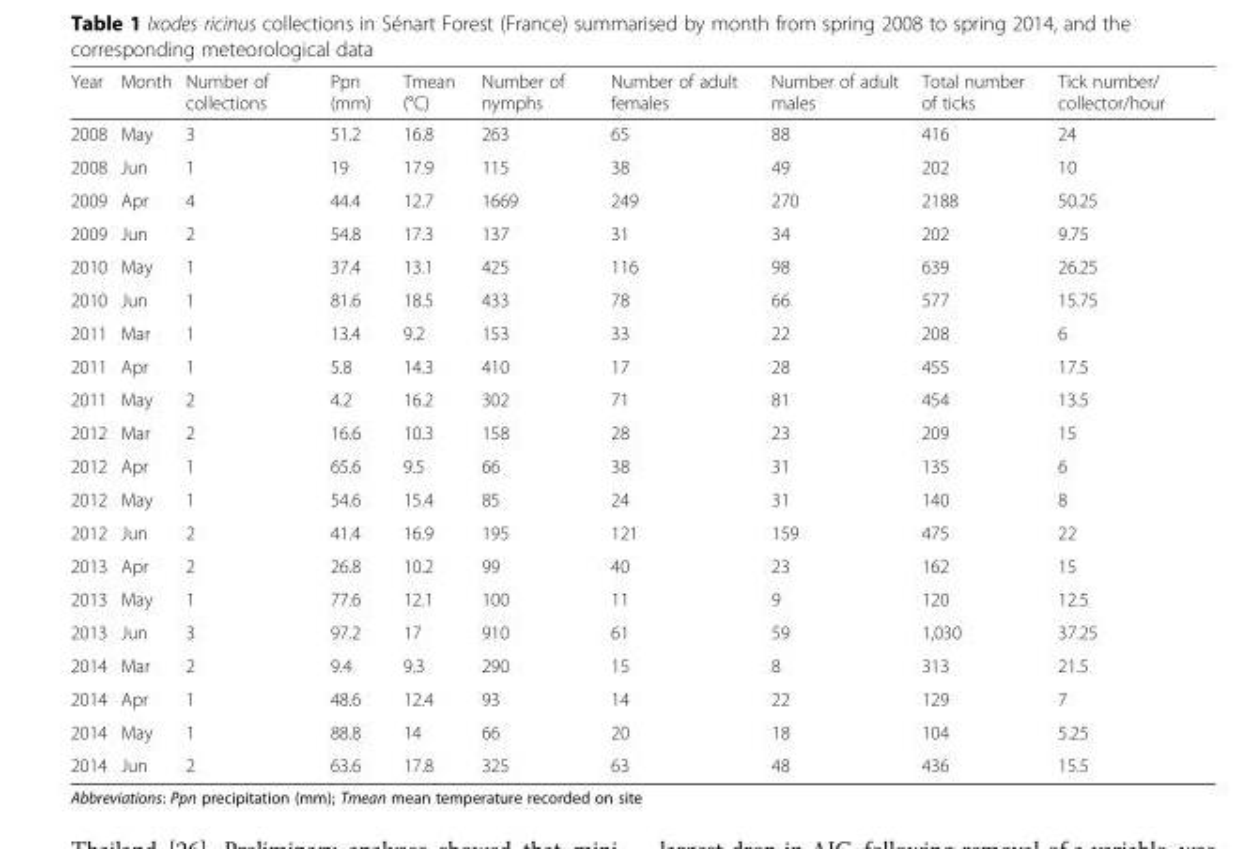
<table><thead><tr><td>Year</td><td>Month</td><td>Number of collections</td><td>Ppn (mm)</td><td>Tmean (°C)</td><td>Number of nymphs</td><td>Number of adult females</td><td>Number of adult males</td><td>Total number of ticks</td><td>Tick number/ collector/hour</td></tr></thead><tbody><tr><td>2008</td><td>May</td><td>3</td><td>51.2</td><td>16.8</td><td>263</td><td>65</td><td>88</td><td>416</td><td>24</td></tr><tr><td>2008</td><td>Jun</td><td>1</td><td>19</td><td>17.9</td><td>115</td><td>38</td><td>49</td><td>202</td><td>10</td></tr><tr><td>2009</td><td>Apr</td><td>4</td><td>44.4</td><td>12.7</td><td>1669</td><td>249</td><td>270</td><td>2188</td><td>50.25</td></tr><tr><td>2009</td><td>Jun</td><td>2</td><td>54.8</td><td>17.3</td><td>137</td><td>31</td><td>34</td><td>202</td><td>9.75</td></tr><tr><td>2010</td><td>May</td><td>1</td><td>37.4</td><td>13.1</td><td>425</td><td>116</td><td>98</td><td>639</td><td>26.25</td></tr><tr><td>2010</td><td>Jun</td><td>1</td><td>81.6</td><td>18.5</td><td>433</td><td>78</td><td>66</td><td>577</td><td>15.75</td></tr><tr><td>2011</td><td>Mar</td><td>1</td><td>13.4</td><td>9.2</td><td>153</td><td>33</td><td>22</td><td>208</td><td>6</td></tr><tr><td>2011</td><td>Apr</td><td>1</td><td>5.8</td><td>14.3</td><td>410</td><td>17</td><td>28</td><td>455</td><td>17.5</td></tr><tr><td>2011</td><td>May</td><td>2</td><td>4.2</td><td>16.2</td><td>302</td><td>71</td><td>81</td><td>454</td><td>13.5</td></tr><tr><td>2012</td><td>Mar</td><td>2</td><td>16.6</td><td>10.3</td><td>158</td><td>28</td><td>23</td><td>209</td><td>15</td></tr><tr><td>2012</td><td>Apr</td><td>1</td><td>65.6</td><td>9.5</td><td>66</td><td>38</td><td>31</td><td>135</td><td>6</td></tr><tr><td>2012</td><td>May</td><td>1</td><td>54.6</td><td>15.4</td><td>85</td><td>24</td><td>31</td><td>140</td><td>8</td></tr><tr><td>2012</td><td>Jun</td><td>2</td><td>41.4</td><td>16.9</td><td>195</td><td>121</td><td>159</td><td>475</td><td>22</td></tr><tr><td>2013</td><td>Apr</td><td>2</td><td>26.8</td><td>10.2</td><td>99</td><td>40</td><td>23</td><td>162</td><td>15</td></tr><tr><td>2013</td><td>May</td><td>1</td><td>77.6</td><td>12.1</td><td>100</td><td>11</td><td>9</td><td>120</td><td>12.5</td></tr><tr><td>2013</td><td>Jun</td><td>3</td><td>97.2</td><td>17</td><td>910</td><td>61</td><td>59</td><td>1,030</td><td>37.25</td></tr><tr><td>2014</td><td>Mar</td><td>2</td><td>9.4</td><td>9.3</td><td>290</td><td>15</td><td>8</td><td>313</td><td>21.5</td></tr><tr><td>2014</td><td>Apr</td><td>1</td><td>48.6</td><td>12.4</td><td>93</td><td>14</td><td>22</td><td>129</td><td>7</td></tr><tr><td>2014</td><td>May</td><td>1</td><td>88.8</td><td>14</td><td>66</td><td>20</td><td>18</td><td>104</td><td>5.25</td></tr><tr><td>2014</td><td>Jun</td><td>2</td><td>63.6</td><td>17.8</td><td>325</td><td>63</td><td>48</td><td>436</td><td>15.5</td></tr></tbody></table>